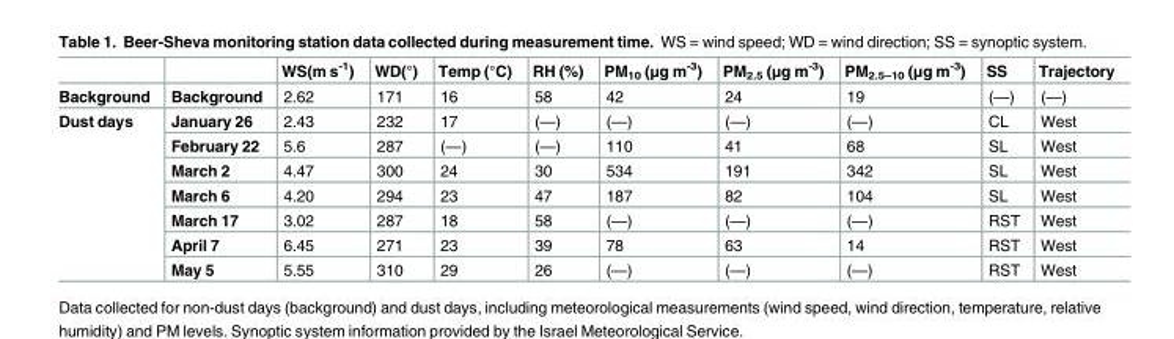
<table><thead><tr><td></td><td></td><td>WS(m s<sup>-1</sup>)</td><td>WD(°)</td><td>Temp (°C)</td><td>RH (%)</td><td>PM<sub>10</sub> (μg m<sup>-3</sup>)</td><td>PM<sub>2.5</sub> (μg m<sup>-3</sup>)</td><td>PM<sub>2.5–10</sub> (μg m<sup>-3</sup>)</td><td>SS</td><td>Trajectory</td></tr></thead><tbody><tr><td>Background</td><td>Background</td><td>2.62</td><td>171</td><td>16</td><td>58</td><td>42</td><td>24</td><td>19</td><td>(—)</td><td>(—)</td></tr><tr><td rowspan="7">Dust days</td><td>January 26</td><td>2.43</td><td>232</td><td>17</td><td>(—)</td><td>(—)</td><td>(—)</td><td>(—)</td><td>CL</td><td>West</td></tr><tr><td>February 22</td><td>5.6</td><td>287</td><td>(—)</td><td>(—)</td><td>110</td><td>41</td><td>68</td><td>SL</td><td>West</td></tr><tr><td>March 2</td><td>4.47</td><td>300</td><td>24</td><td>30</td><td>534</td><td>191</td><td>342</td><td>SL</td><td>West</td></tr><tr><td>March 6</td><td>4.20</td><td>294</td><td>23</td><td>47</td><td>187</td><td>82</td><td>104</td><td>SL</td><td>West</td></tr><tr><td>March 17</td><td>3.02</td><td>287</td><td>18</td><td>58</td><td>(—)</td><td>(—)</td><td>(—)</td><td>RST</td><td>West</td></tr><tr><td>April 7</td><td>6.45</td><td>271</td><td>23</td><td>39</td><td>78</td><td>63</td><td>14</td><td>RST</td><td>West</td></tr><tr><td>May 5</td><td>5.55</td><td>310</td><td>29</td><td>26</td><td>(—)</td><td>(—)</td><td>(—)</td><td>RST</td><td>West</td></tr></tbody></table>